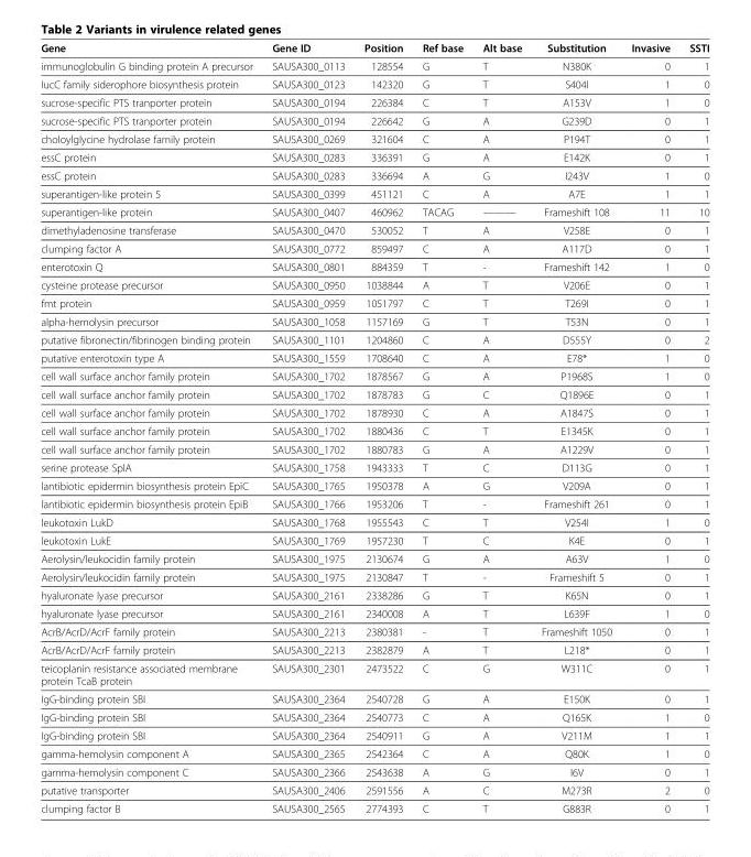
<table><thead><tr><td>Gene</td><td>Gene ID</td><td>Position</td><td>Ref base</td><td>Alt base</td><td>Substitution</td><td>Invasive</td><td>SSTI</td></tr></thead><tbody><tr><td>immunoglobulin G binding protein A precursor</td><td>SAUSA300_0113</td><td>128554</td><td>G</td><td>T</td><td>N380K</td><td>0</td><td>1</td></tr><tr><td>IucC family siderophore biosynthesis protein</td><td>SAUSA300_0123</td><td>142320</td><td>G</td><td>T</td><td>S404I</td><td>1</td><td>0</td></tr><tr><td>sucrose-specific PTS tranporter protein</td><td>SAUSA300_0194</td><td>226384</td><td>C</td><td>T</td><td>A153V</td><td>1</td><td>0</td></tr><tr><td>sucrose-specific PTS tranporter protein</td><td>SAUSA300_0194</td><td>226642</td><td>G</td><td>A</td><td>G239D</td><td>0</td><td>1</td></tr><tr><td>choloylglycine hydrolase family protein</td><td>SAUSA300_0269</td><td>321604</td><td>C</td><td>A</td><td>P194T</td><td>0</td><td>1</td></tr><tr><td>essC protein</td><td>SAUSA300_0283</td><td>336391</td><td>G</td><td>A</td><td>E142K</td><td>0</td><td>1</td></tr><tr><td>essC protein</td><td>SAUSA300_0283</td><td>336694</td><td>A</td><td>G</td><td>I243V</td><td>1</td><td>0</td></tr><tr><td>superantigen-like protein 5</td><td>SAUSA300_0399</td><td>451121</td><td>C</td><td>A</td><td>A7E</td><td>1</td><td>1</td></tr><tr><td>superantigen-like protein</td><td>SAUSA300_0407</td><td>460962</td><td>TACAG</td><td>———</td><td>Frameshift 108</td><td>11</td><td>10</td></tr><tr><td>dimethyladenosine transferase</td><td>SAUSA300_0470</td><td>530052</td><td>T</td><td>A</td><td>V258E</td><td>0</td><td>1</td></tr><tr><td>clumping factor A</td><td>SAUSA300_0772</td><td>859497</td><td>C</td><td>A</td><td>A117D</td><td>0</td><td>1</td></tr><tr><td>enterotoxin Q</td><td>SAUSA300_0801</td><td>884359</td><td>T</td><td>-</td><td>Frameshift 142</td><td>1</td><td>0</td></tr><tr><td>cysteine protease precursor</td><td>SAUSA300_0950</td><td>1038844</td><td>A</td><td>T</td><td>V206E</td><td>0</td><td>1</td></tr><tr><td>fmt protein</td><td>SAUSA300_0959</td><td>1051797</td><td>C</td><td>T</td><td>T269I</td><td>0</td><td>1</td></tr><tr><td>alpha-hemolysin precursor</td><td>SAUSA300_1058</td><td>1157169</td><td>G</td><td>T</td><td>T53N</td><td>0</td><td>1</td></tr><tr><td>putative fibronectin/fibrinogen binding protein</td><td>SAUSA300_1101</td><td>1204860</td><td>C</td><td>A</td><td>D555Y</td><td>0</td><td>2</td></tr><tr><td>putative enterotoxin type A</td><td>SAUSA300_1559</td><td>1708640</td><td>C</td><td>A</td><td>E78*</td><td>1</td><td>0</td></tr><tr><td>cell wall surface anchor family protein</td><td>SAUSA300_1702</td><td>1878567</td><td>G</td><td>A</td><td>P1968S</td><td>1</td><td>0</td></tr><tr><td>cell wall surface anchor family protein</td><td>SAUSA300_1702</td><td>1878783</td><td>G</td><td>C</td><td>Q1896E</td><td>0</td><td>1</td></tr><tr><td>cell wall surface anchor family protein</td><td>SAUSA300_1702</td><td>1878930</td><td>C</td><td>A</td><td>A1847S</td><td>0</td><td>1</td></tr><tr><td>cell wall surface anchor family protein</td><td>SAUSA300_1702</td><td>1880436</td><td>C</td><td>T</td><td>E1345K</td><td>0</td><td>1</td></tr><tr><td>cell wall surface anchor family protein</td><td>SAUSA300_1702</td><td>1880783</td><td>G</td><td>A</td><td>A1229V</td><td>0</td><td>1</td></tr><tr><td>serine protease SplA</td><td>SAUSA300_1758</td><td>1943333</td><td>T</td><td>C</td><td>D113G</td><td>0</td><td>1</td></tr><tr><td>lantibiotic epidermin biosynthesis protein EpiC</td><td>SAUSA300_1765</td><td>1950378</td><td>A</td><td>G</td><td>V209A</td><td>0</td><td>1</td></tr><tr><td>lantibiotic epidermin biosynthesis protein EpiB</td><td>SAUSA300_1766</td><td>1953206</td><td>T</td><td>-</td><td>Frameshift 261</td><td>0</td><td>1</td></tr><tr><td>leukotoxin LukD</td><td>SAUSA300_1768</td><td>1955543</td><td>C</td><td>T</td><td>V254I</td><td>1</td><td>0</td></tr><tr><td>leukotoxin LukE</td><td>SAUSA300_1769</td><td>1957230</td><td>T</td><td>C</td><td>K4E</td><td>0</td><td>1</td></tr><tr><td>Aerolysin/leukocidin family protein</td><td>SAUSA300_1975</td><td>2130674</td><td>G</td><td>A</td><td>A63V</td><td>1</td><td>0</td></tr><tr><td>Aerolysin/leukocidin family protein</td><td>SAUSA300_1975</td><td>2130847</td><td>T</td><td>-</td><td>Frameshift 5</td><td>0</td><td>1</td></tr><tr><td>hyaluronate lyase precursor</td><td>SAUSA300_2161</td><td>2338286</td><td>G</td><td>T</td><td>K65N</td><td>0</td><td>1</td></tr><tr><td>hyaluronate lyase precursor</td><td>SAUSA300_2161</td><td>2340008</td><td>A</td><td>T</td><td>L639F</td><td>1</td><td>0</td></tr><tr><td>AcrB/AcrD/AcrF family protein</td><td>SAUSA300_2213</td><td>2380381</td><td>-</td><td>T</td><td>Frameshift 1050</td><td>0</td><td>1</td></tr><tr><td>AcrB/AcrD/AcrF family protein</td><td>SAUSA300_2213</td><td>2382879</td><td>A</td><td>T</td><td>L218*</td><td>0</td><td>1</td></tr><tr><td>teicoplanin resistance associated membrane protein TcaB protein</td><td>SAUSA300_2301</td><td>2473522</td><td>C</td><td>G</td><td>W311C</td><td>0</td><td>1</td></tr><tr><td>IgG-binding protein SBI</td><td>SAUSA300_2364</td><td>2540728</td><td>G</td><td>A</td><td>E150K</td><td>0</td><td>1</td></tr><tr><td>IgG-binding protein SBI</td><td>SAUSA300_2364</td><td>2540773</td><td>C</td><td>A</td><td>Q165K</td><td>1</td><td>0</td></tr><tr><td>IgG-binding protein SBI</td><td>SAUSA300_2364</td><td>2540911</td><td>G</td><td>A</td><td>V211M</td><td>1</td><td>1</td></tr><tr><td>gamma-hemolysin component A</td><td>SAUSA300_2365</td><td>2542364</td><td>C</td><td>A</td><td>Q80K</td><td>1</td><td>0</td></tr><tr><td>gamma-hemolysin component C</td><td>SAUSA300_2366</td><td>2543638</td><td>A</td><td>G</td><td>I6V</td><td>0</td><td>1</td></tr><tr><td>putative transporter</td><td>SAUSA300_2406</td><td>2591556</td><td>A</td><td>C</td><td>M273R</td><td>2</td><td>0</td></tr><tr><td>clumping factor B</td><td>SAUSA300_2565</td><td>2774393</td><td>C</td><td>T</td><td>G883R</td><td>0</td><td>1</td></tr></tbody></table>